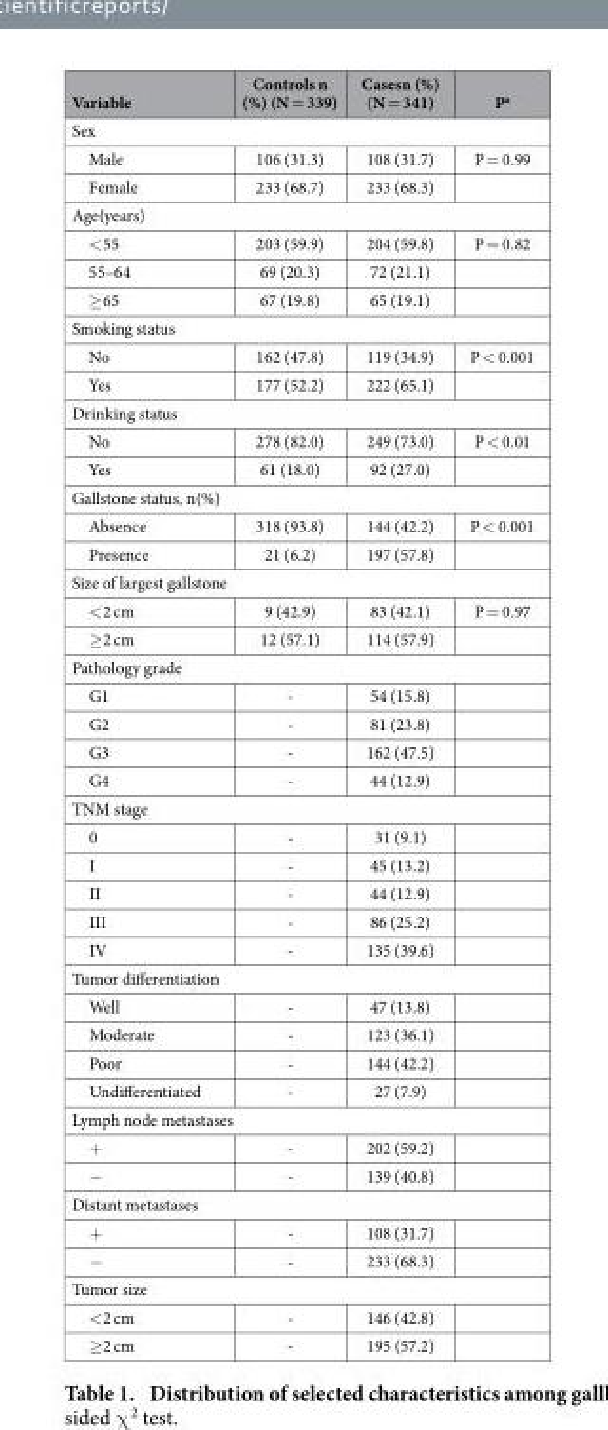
<table><thead><tr><td>Variable</td><td>Controls n (%) (N = 339)</td><td>Casesn (%) (N = 341)</td><td>P<sup>a</sup></td></tr></thead><tbody><tr><td colspan="4">Sex</td></tr><tr><td>Male</td><td>106 (31.3)</td><td>108 (31.7)</td><td>P = 0.99</td></tr><tr><td>Female</td><td>233 (68.7)</td><td>233 (68.3)</td><td></td></tr><tr><td colspan="4">Age(years)</td></tr><tr><td>&lt; 55</td><td>203 (59.9)</td><td>204 (59.8)</td><td>P = 0.82</td></tr><tr><td>55–64</td><td>69 (20.3)</td><td>72 (21.1)</td><td></td></tr><tr><td>≥ 65</td><td>67 (19.8)</td><td>65 (19.1)</td><td></td></tr><tr><td colspan="4">Smoking status</td></tr><tr><td>No</td><td>162 (47.8)</td><td>119 (34.9)</td><td>P &lt; 0.001</td></tr><tr><td>Yes</td><td>177 (52.2)</td><td>222 (65.1)</td><td></td></tr><tr><td colspan="4">Drinking status</td></tr><tr><td>No</td><td>278 (82.0)</td><td>249 (73.0)</td><td>P &lt; 0.01</td></tr><tr><td>Yes</td><td>61 (18.0)</td><td>92 (27.0)</td><td></td></tr><tr><td colspan="4">Gallstone status, n(%)</td></tr><tr><td>Absence</td><td>318 (93.8)</td><td>144 (42.2)</td><td>P &lt; 0.001</td></tr><tr><td>Presence</td><td>21 (6.2)</td><td>197 (57.8)</td><td></td></tr><tr><td colspan="4">Size of largest gallstone</td></tr><tr><td>&lt; 2 cm</td><td>9 (42.9)</td><td>83 (42.1)</td><td>P = 0.97</td></tr><tr><td>≥ 2 cm</td><td>12 (57.1)</td><td>114 (57.9)</td><td></td></tr><tr><td colspan="4">Pathology grade</td></tr><tr><td>G1</td><td>-</td><td>54 (15.8)</td><td></td></tr><tr><td>G2</td><td>-</td><td>81 (23.8)</td><td></td></tr><tr><td>G3</td><td>-</td><td>162 (47.5)</td><td></td></tr><tr><td>G4</td><td>-</td><td>44 (12.9)</td><td></td></tr><tr><td colspan="4">TNM stage</td></tr><tr><td>0</td><td>-</td><td>31 (9.1)</td><td></td></tr><tr><td>I</td><td>-</td><td>45 (13.2)</td><td></td></tr><tr><td>II</td><td>-</td><td>44 (12.9)</td><td></td></tr><tr><td>III</td><td>-</td><td>86 (25.2)</td><td></td></tr><tr><td>IV</td><td>-</td><td>135 (39.6)</td><td></td></tr><tr><td colspan="4">Tumor differentiation</td></tr><tr><td>Well</td><td>-</td><td>47 (13.8)</td><td></td></tr><tr><td>Moderate</td><td>-</td><td>123 (36.1)</td><td></td></tr><tr><td>Poor</td><td>-</td><td>144 (42.2)</td><td></td></tr><tr><td>Undifferentiated</td><td>-</td><td>27 (7.9)</td><td></td></tr><tr><td colspan="4">Lymph node metastases</td></tr><tr><td>+</td><td>-</td><td>202 (59.2)</td><td></td></tr><tr><td>−</td><td>-</td><td>139 (40.8)</td><td></td></tr><tr><td colspan="4">Distant metastases</td></tr><tr><td>+</td><td>-</td><td>108 (31.7)</td><td></td></tr><tr><td>−</td><td>-</td><td>233 (68.3)</td><td></td></tr><tr><td colspan="4">Tumor size</td></tr><tr><td>&lt; 2 cm</td><td>-</td><td>146 (42.8)</td><td></td></tr><tr><td>≥ 2 cm</td><td>-</td><td>195 (57.2)</td><td></td></tr></tbody></table>